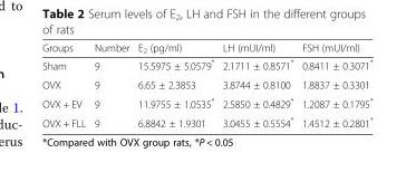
<table><thead><tr><td>Groups</td><td>Number</td><td>E<sub>2</sub> (pg/ml)</td><td>LH (mUI/ml)</td><td>FSH (mUI/ml)</td></tr></thead><tbody><tr><td>Sham</td><td>9</td><td>15.5975 ± 5.0579*</td><td>2.1711 ± 0.8571*</td><td>0.8411 ± 0.3071*</td></tr><tr><td>OVX</td><td>9</td><td>6.65 ± 2.3853</td><td>3.8744 ± 0.8100</td><td>1.8837 ± 0.3301</td></tr><tr><td>OVX + EV</td><td>9</td><td>11.9755 ± 1.0535*</td><td>2.5850 ± 0.4829*</td><td>1.2087 ± 0.1795*</td></tr><tr><td>OVX + FLL</td><td>9</td><td>6.8842 ± 1.9301</td><td>3.0455 ± 0.5554*</td><td>1.4512 ± 0.2801*</td></tr></tbody></table>